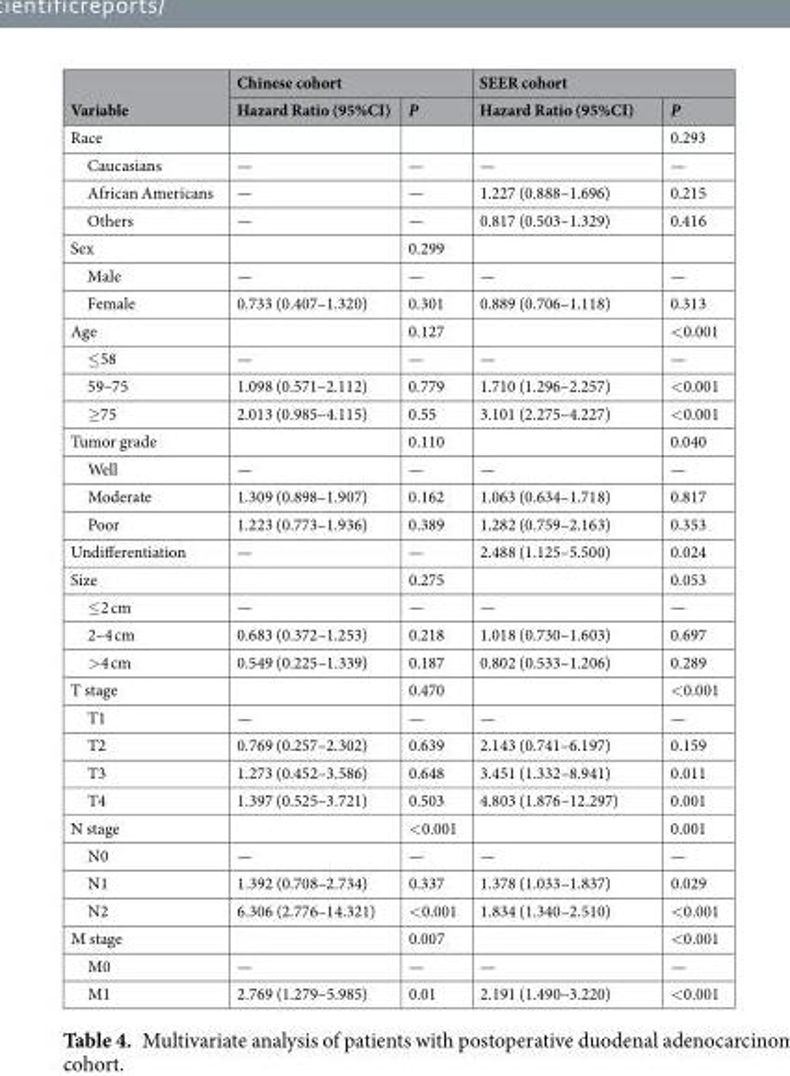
<table><thead><tr><td rowspan="2">Variable</td><td colspan="2">Chinese cohort</td><td colspan="2">SEER cohort</td></tr><tr><td>Hazard Ratio (95%CI)</td><td>P</td><td>Hazard Ratio (95%CI)</td><td>P</td></tr></thead><tbody><tr><td>Race</td><td></td><td></td><td></td><td>0.293</td></tr><tr><td>Caucasians</td><td>—</td><td>—</td><td>—</td><td>—</td></tr><tr><td>African Americans</td><td>—</td><td>—</td><td>1.227 (0.888–1.696)</td><td>0.215</td></tr><tr><td>Others</td><td>—</td><td>—</td><td>0.817 (0.503–1.329)</td><td>0.416</td></tr><tr><td>Sex</td><td></td><td>0.299</td><td></td><td></td></tr><tr><td>Male</td><td>—</td><td>—</td><td>—</td><td>—</td></tr><tr><td>Female</td><td>0.733 (0.407–1.320)</td><td>0.301</td><td>0.889 (0.706–1.118)</td><td>0.313</td></tr><tr><td>Age</td><td></td><td>0.127</td><td></td><td>&lt;0.001</td></tr><tr><td>≤58</td><td>—</td><td>—</td><td>—</td><td>—</td></tr><tr><td>59–75</td><td>1.098 (0.571–2.112)</td><td>0.779</td><td>1.710 (1.296–2.257)</td><td>&lt;0.001</td></tr><tr><td>≥75</td><td>2.013 (0.985–4.115)</td><td>0.55</td><td>3.101 (2.275–4.227)</td><td>&lt;0.001</td></tr><tr><td>Tumor grade</td><td></td><td>0.110</td><td></td><td>0.040</td></tr><tr><td>Well</td><td>—</td><td>—</td><td>—</td><td>—</td></tr><tr><td>Moderate</td><td>1.309 (0.898–1.907)</td><td>0.162</td><td>1.063 (0.634–1.718)</td><td>0.817</td></tr><tr><td>Poor</td><td>1.223 (0.773–1.936)</td><td>0.389</td><td>1.282 (0.759–2.163)</td><td>0.353</td></tr><tr><td>Undifferentiation</td><td>—</td><td>—</td><td>2.488 (1.125–5.500)</td><td>0.024</td></tr><tr><td>Size</td><td></td><td>0.275</td><td></td><td>0.053</td></tr><tr><td>≤2 cm</td><td>—</td><td>—</td><td>—</td><td>—</td></tr><tr><td>2–4 cm</td><td>0.683 (0.372–1.253)</td><td>0.218</td><td>1.018 (0.730–1.603)</td><td>0.697</td></tr><tr><td>&gt;4 cm</td><td>0.549 (0.225–1.339)</td><td>0.187</td><td>0.802 (0.533–1.206)</td><td>0.289</td></tr><tr><td>T stage</td><td></td><td>0.470</td><td></td><td>&lt;0.001</td></tr><tr><td>T1</td><td>—</td><td>—</td><td>—</td><td>—</td></tr><tr><td>T2</td><td>0.769 (0.257–2.302)</td><td>0.639</td><td>2.143 (0.741–6.197)</td><td>0.159</td></tr><tr><td>T3</td><td>1.273 (0.452–3.586)</td><td>0.648</td><td>3.451 (1.332–8.941)</td><td>0.011</td></tr><tr><td>T4</td><td>1.397 (0.525–3.721)</td><td>0.503</td><td>4.803 (1.876–12.297)</td><td>0.001</td></tr><tr><td>N stage</td><td></td><td>&lt;0.001</td><td></td><td>0.001</td></tr><tr><td>N0</td><td>—</td><td>—</td><td>—</td><td>—</td></tr><tr><td>N1</td><td>1.392 (0.708–2.734)</td><td>0.337</td><td>1.378 (1.033–1.837)</td><td>0.029</td></tr><tr><td>N2</td><td>6.306 (2.776–14.321)</td><td>&lt;0.001</td><td>1.834 (1.340–2.510)</td><td>&lt;0.001</td></tr><tr><td>M stage</td><td></td><td>0.007</td><td></td><td>&lt;0.001</td></tr><tr><td>M0</td><td>—</td><td>—</td><td>—</td><td>—</td></tr><tr><td>M1</td><td>2.769 (1.279–5.985)</td><td>0.01</td><td>2.191 (1.490–3.220)</td><td>&lt;0.001</td></tr></tbody></table>